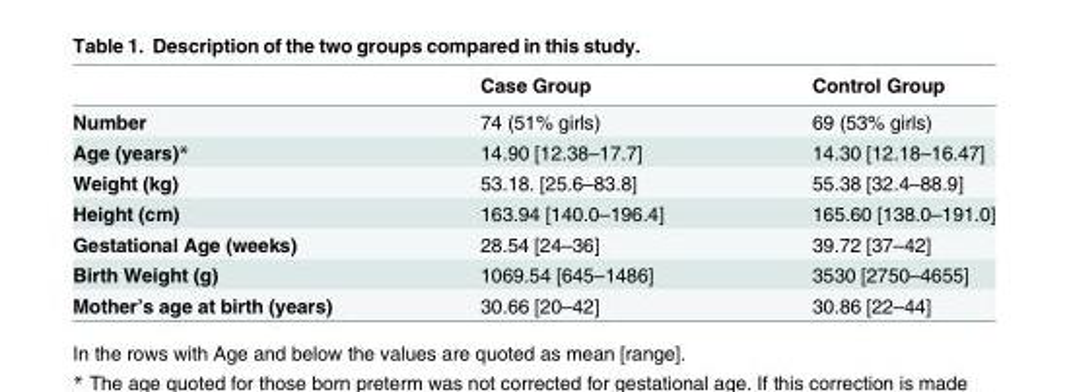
<table><thead><tr><td></td><td>Case Group</td><td>Control Group</td></tr></thead><tbody><tr><td>Number</td><td>74 (51% girls)</td><td>69 (53% girls)</td></tr><tr><td>Age (years)*</td><td>14.90 [12.38–17.7]</td><td>14.30 [12.18–16.47]</td></tr><tr><td>Weight (kg)</td><td>53.18. [25.6–83.8]</td><td>55.38 [32.4–88.9]</td></tr><tr><td>Height (cm)</td><td>163.94 [140.0–196.4]</td><td>165.60 [138.0–191.0]</td></tr><tr><td>Gestational Age (weeks)</td><td>28.54 [24–36]</td><td>39.72 [37–42]</td></tr><tr><td>Birth Weight (g)</td><td>1069.54 [645–1486]</td><td>3530 [2750–4655]</td></tr><tr><td>Mother’s age at birth (years)</td><td>30.66 [20–42]</td><td>30.86 [22–44]</td></tr></tbody></table>